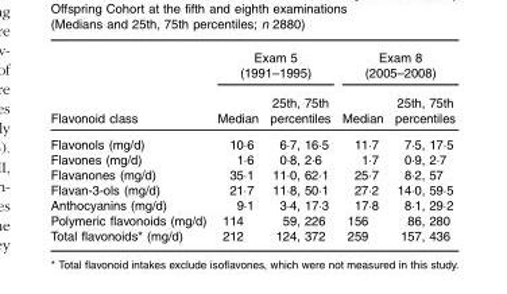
<table><thead><tr><td rowspan="2">Flavonoid class</td><td colspan="2">Exam 5 (1991–1995)</td><td colspan="2">Exam 8 (2005–2008)</td></tr><tr><td>Median</td><td>25th, 75th percentiles</td><td>Median</td><td>25th, 75th percentiles</td></tr></thead><tbody><tr><td>Flavonols (mg/d)</td><td>10·6</td><td>6·7, 16·5</td><td>11·7</td><td>7·5, 17·5</td></tr><tr><td>Flavones (mg/d)</td><td>1·6</td><td>0·8, 2·6</td><td>1·7</td><td>0·9, 2·7</td></tr><tr><td>Flavanones (mg/d)</td><td>35·1</td><td>11·0, 62·1</td><td>25·7</td><td>8·2, 57</td></tr><tr><td>Flavan-3-ols (mg/d)</td><td>21·7</td><td>11·8, 50·1</td><td>27·2</td><td>14·0, 59·5</td></tr><tr><td>Anthocyanins (mg/d)</td><td>9·1</td><td>3·4, 17·3</td><td>17·8</td><td>8·1, 29·2</td></tr><tr><td>Polymeric flavonoids (mg/d)</td><td>114</td><td>59, 226</td><td>156</td><td>86, 280</td></tr><tr><td>Total flavonoids* (mg/d)</td><td>212</td><td>124, 372</td><td>259</td><td>157, 436</td></tr></tbody></table>